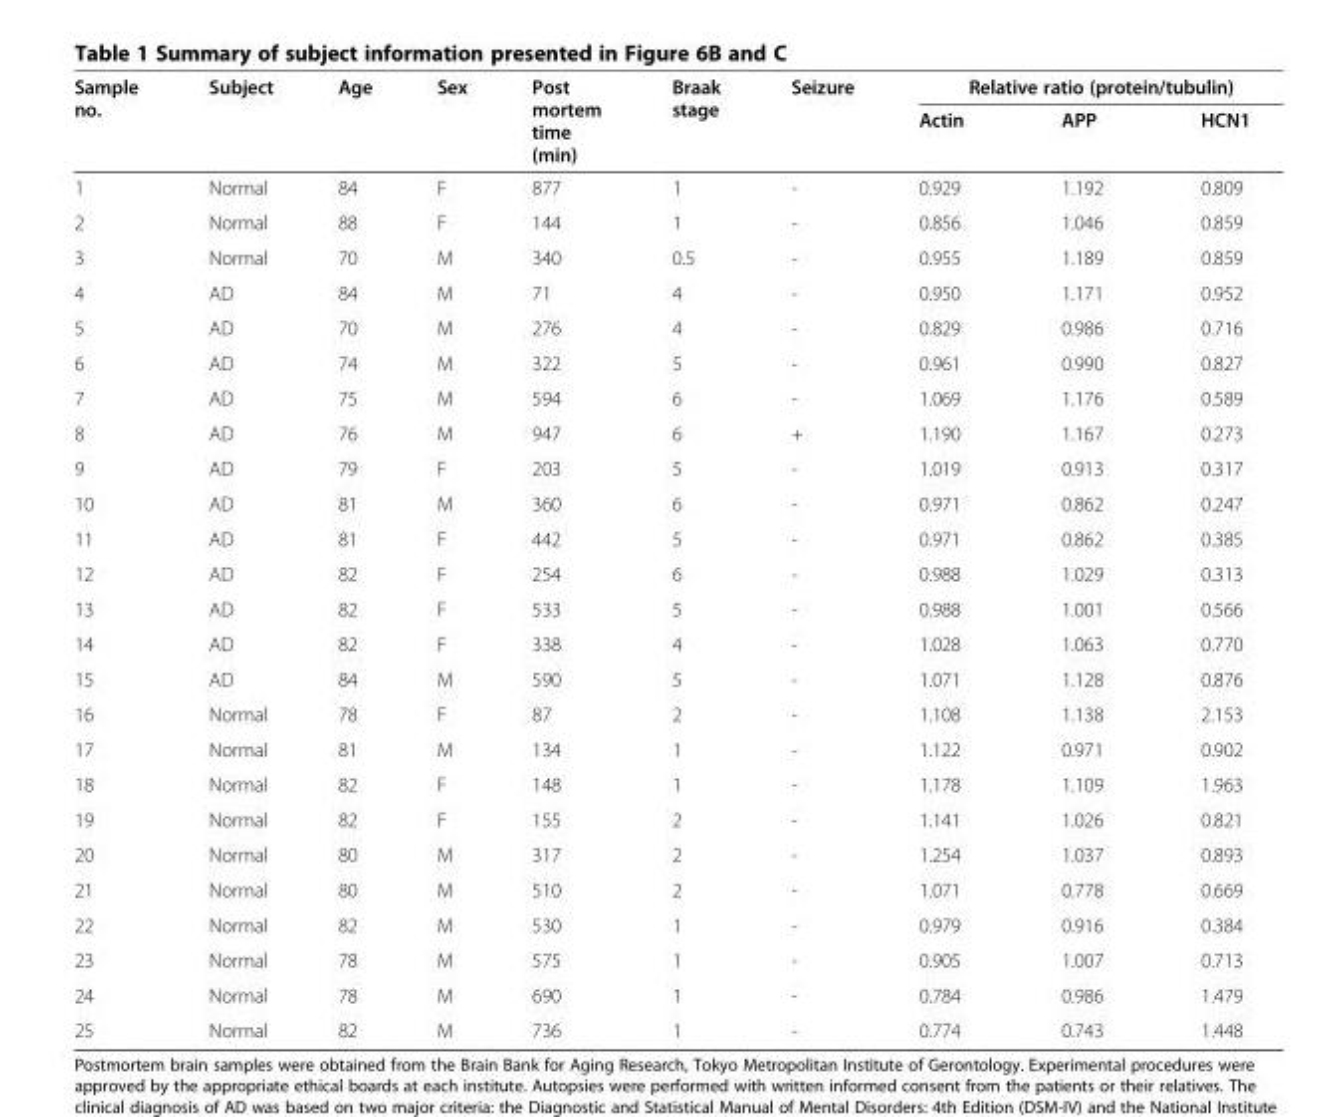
<table><thead><tr><td rowspan="2">Sample no.</td><td rowspan="2">Subject</td><td rowspan="2">Age</td><td rowspan="2">Sex</td><td rowspan="2">Post mortem time (min)</td><td rowspan="2">Braak stage</td><td rowspan="2">Seizure</td><td colspan="3">Relative ratio (protein/tubulin)</td></tr><tr><td>Actin</td><td>APP</td><td>HCN1</td></tr></thead><tbody><tr><td>1</td><td>Normal</td><td>84</td><td>F</td><td>877</td><td>1</td><td>-</td><td>0.929</td><td>1.192</td><td>0.809</td></tr><tr><td>2</td><td>Normal</td><td>88</td><td>F</td><td>144</td><td>1</td><td>-</td><td>0.856</td><td>1.046</td><td>0.859</td></tr><tr><td>3</td><td>Normal</td><td>70</td><td>M</td><td>340</td><td>0.5</td><td>-</td><td>0.955</td><td>1.189</td><td>0.859</td></tr><tr><td>4</td><td>AD</td><td>84</td><td>M</td><td>71</td><td>4</td><td>-</td><td>0.950</td><td>1.171</td><td>0.952</td></tr><tr><td>5</td><td>AD</td><td>70</td><td>M</td><td>276</td><td>4</td><td>-</td><td>0.829</td><td>0.986</td><td>0.716</td></tr><tr><td>6</td><td>AD</td><td>74</td><td>M</td><td>322</td><td>5</td><td>-</td><td>0.961</td><td>0.990</td><td>0.827</td></tr><tr><td>7</td><td>AD</td><td>75</td><td>M</td><td>594</td><td>6</td><td>-</td><td>1.069</td><td>1.176</td><td>0.589</td></tr><tr><td>8</td><td>AD</td><td>76</td><td>M</td><td>947</td><td>6</td><td>+</td><td>1.190</td><td>1.167</td><td>0.273</td></tr><tr><td>9</td><td>AD</td><td>79</td><td>F</td><td>203</td><td>5</td><td>-</td><td>1.019</td><td>0.913</td><td>0.317</td></tr><tr><td>10</td><td>AD</td><td>81</td><td>M</td><td>360</td><td>6</td><td>-</td><td>0.971</td><td>0.862</td><td>0.247</td></tr><tr><td>11</td><td>AD</td><td>81</td><td>F</td><td>442</td><td>5</td><td>-</td><td>0.971</td><td>0.862</td><td>0.385</td></tr><tr><td>12</td><td>AD</td><td>82</td><td>F</td><td>254</td><td>6</td><td>-</td><td>0.988</td><td>1.029</td><td>0.313</td></tr><tr><td>13</td><td>AD</td><td>82</td><td>F</td><td>533</td><td>5</td><td>-</td><td>0.988</td><td>1.001</td><td>0.566</td></tr><tr><td>14</td><td>AD</td><td>82</td><td>F</td><td>338</td><td>4</td><td>-</td><td>1.028</td><td>1.063</td><td>0.770</td></tr><tr><td>15</td><td>AD</td><td>84</td><td>M</td><td>590</td><td>5</td><td>-</td><td>1.071</td><td>1.128</td><td>0.876</td></tr><tr><td>16</td><td>Normal</td><td>78</td><td>F</td><td>87</td><td>2</td><td>-</td><td>1.108</td><td>1.138</td><td>2.153</td></tr><tr><td>17</td><td>Normal</td><td>81</td><td>M</td><td>134</td><td>1</td><td>-</td><td>1.122</td><td>0.971</td><td>0.902</td></tr><tr><td>18</td><td>Normal</td><td>82</td><td>F</td><td>148</td><td>1</td><td>-</td><td>1.178</td><td>1.109</td><td>1.963</td></tr><tr><td>19</td><td>Normal</td><td>82</td><td>F</td><td>155</td><td>2</td><td>-</td><td>1.141</td><td>1.026</td><td>0.821</td></tr><tr><td>20</td><td>Normal</td><td>80</td><td>M</td><td>317</td><td>2</td><td>-</td><td>1.254</td><td>1.037</td><td>0.893</td></tr><tr><td>21</td><td>Normal</td><td>80</td><td>M</td><td>510</td><td>2</td><td>-</td><td>1.071</td><td>0.778</td><td>0.669</td></tr><tr><td>22</td><td>Normal</td><td>82</td><td>M</td><td>530</td><td>1</td><td>-</td><td>0.979</td><td>0.916</td><td>0.384</td></tr><tr><td>23</td><td>Normal</td><td>78</td><td>M</td><td>575</td><td>1</td><td>-</td><td>0.905</td><td>1.007</td><td>0.713</td></tr><tr><td>24</td><td>Normal</td><td>78</td><td>M</td><td>690</td><td>1</td><td>-</td><td>0.784</td><td>0.986</td><td>1.479</td></tr><tr><td>25</td><td>Normal</td><td>82</td><td>M</td><td>736</td><td>1</td><td>-</td><td>0.774</td><td>0.743</td><td>1.448</td></tr></tbody></table>